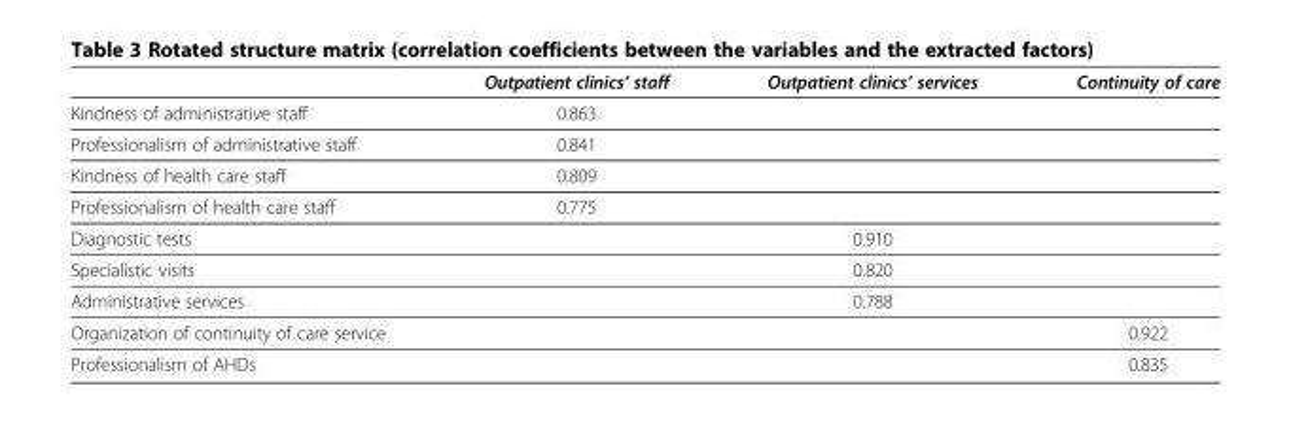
<table><thead><tr><td></td><td>Outpatient clinics’ staff</td><td>Outpatient clinics’ services</td><td>Continuity of care</td></tr></thead><tbody><tr><td>Kindness of administrative staff</td><td>0.863</td><td></td><td></td></tr><tr><td>Professionalism of administrative staff</td><td>0.841</td><td></td><td></td></tr><tr><td>Kindness of health care staff</td><td>0.809</td><td></td><td></td></tr><tr><td>Professionalism of health care staff</td><td>0.775</td><td></td><td></td></tr><tr><td>Diagnostic tests</td><td></td><td>0.910</td><td></td></tr><tr><td>Specialistic visits</td><td></td><td>0.820</td><td></td></tr><tr><td>Administrative services</td><td></td><td>0.788</td><td></td></tr><tr><td>Organization of continuity of care service</td><td></td><td></td><td>0.922</td></tr><tr><td>Professionalism of AHDs</td><td></td><td></td><td>0.835</td></tr></tbody></table>